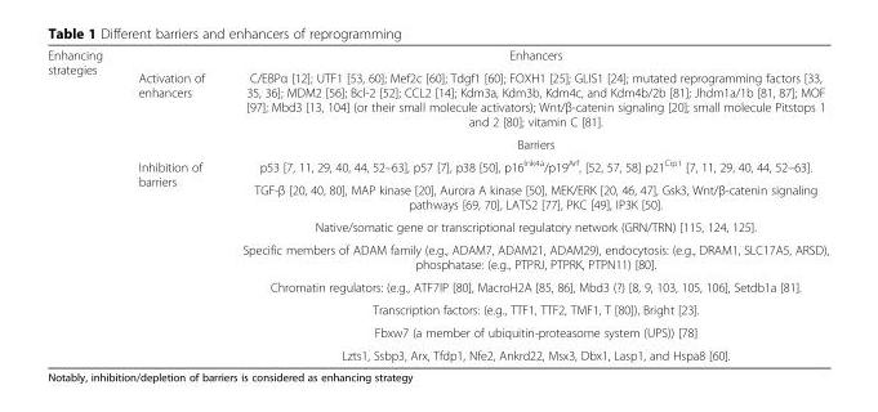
<table><tbody><tr><td rowspan="11">Enhancing strategies</td><td></td><td>Enhancers</td></tr><tr><td>Activation of enhancers</td><td>C/EBPα [12]; UTF1 [53, 60]; Mef2c [60]; Tdgf1 [60]; FOXH1 [25]; GLIS1 [24]; mutated reprogramming factors [33, 35, 36]; MDM2 [56]; Bcl-2 [52]; CCL2 [14]; Kdm3a, Kdm3b, Kdm4c, and Kdm4b/2b [81]; Jhdm1a/1b [81, 87]; MOF [97]; Mbd3 [13, 104] (or their small molecule activators); Wnt/β-catenin signaling [20]; small molecule Pitstops 1 and 2 [80]; vitamin C [81].</td></tr><tr><td></td><td>Barriers</td></tr><tr><td rowspan="8">Inhibition of barriers</td><td>p53 [7, 11, 29, 40, 44, 52–63], p57 [7], p38 [50], p16<sup>Ink4a</sup>/p19<sup>Arf</sup>, [52, 57, 58] p21<sup>Cip1</sup> [7, 11, 29, 40, 44, 52–63].</td></tr><tr><td>TGF-β [20, 40, 80], MAP kinase [20], Aurora A kinase [50], MEK/ERK [20, 46, 47], Gsk3, Wnt/β-catenin signaling pathways [69, 70], LATS2 [77], PKC [49], IP3K [50].</td></tr><tr><td>Native/somatic gene or transcriptional regulatory network (GRN/TRN) [115, 124, 125].</td></tr><tr><td>Specific members of ADAM family (e.g., ADAM7, ADAM21, ADAM29), endocytosis: (e.g., DRAM1, SLC17A5, ARSD), phosphatase: (e.g., PTPRJ, PTPRK, PTPN11) [80].</td></tr><tr><td>Chromatin regulators: (e.g., ATF7IP [80], MacroH2A [85, 86], Mbd3 (?) [8, 9, 103, 105, 106], Setdb1a [81].</td></tr><tr><td>Transcription factors: (e.g., TTF1, TTF2, TMF1, T [80]), Bright [23].</td></tr><tr><td>Fbxw7 (a member of ubiquitin-proteasome system (UPS)) [78]</td></tr><tr><td>Lzts1, Ssbp3, Arx, Tfdp1, Nfe2, Ankrd22, Msx3, Dbx1, Lasp1, and Hspa8 [60].</td></tr></tbody></table>